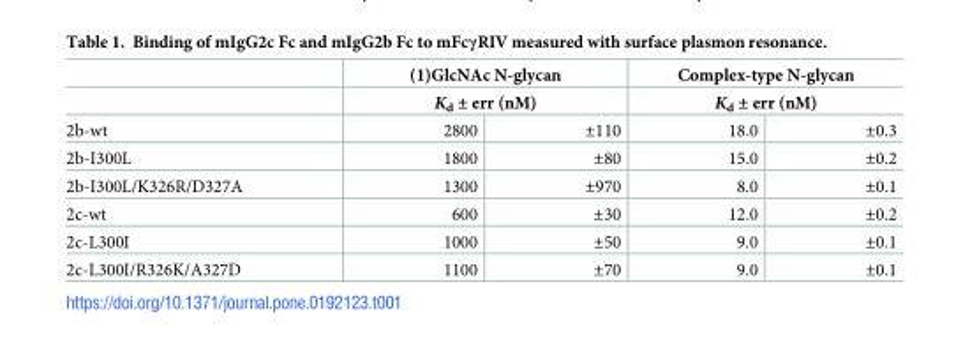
<table><thead><tr><td rowspan="3">2b-wt</td><td rowspan="2" colspan="2">(1)GlcNAc N-glycan K<sub>d</sub> ± err (nM)</td><td rowspan="2" colspan="2">Complex-type N-glycan K<sub>d</sub> ± err (nM)</td></tr><tr></tr><tr><td>2800</td><td>±110</td><td>18.0</td><td>±0.3</td></tr></thead><tbody><tr><td>2b-I300L</td><td>1800</td><td>±80</td><td>15.0</td><td>±0.2</td></tr><tr><td>2b-I300L/K326R/D327A</td><td>1300</td><td>±970</td><td>8.0</td><td>±0.1</td></tr><tr><td>2c-wt</td><td>600</td><td>±30</td><td>12.0</td><td>±0.2</td></tr><tr><td>2c-L300I</td><td>1000</td><td>±50</td><td>9.0</td><td>±0.1</td></tr><tr><td>2c-L300I/R326K/A327D</td><td>1100</td><td>±70</td><td>9.0</td><td>±0.1</td></tr></tbody></table>